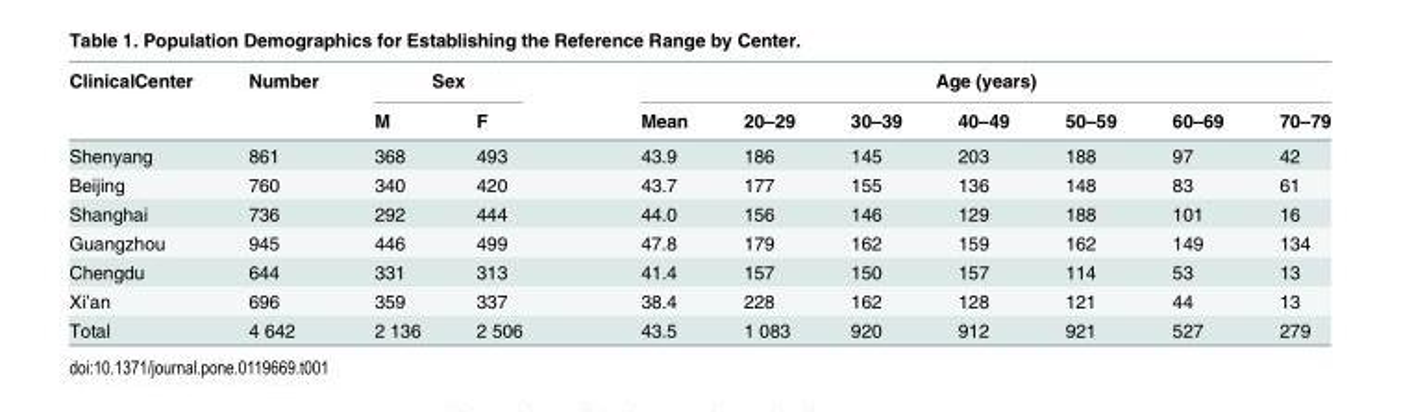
<table><thead><tr><td rowspan="2">ClinicalCenter</td><td rowspan="2">Number</td><td colspan="2">Sex</td><td colspan="7">Age (years)</td></tr><tr><td>M</td><td>F</td><td>Mean</td><td>20–29</td><td>30–39</td><td>40–49</td><td>50–59</td><td>60–69</td><td>70–79</td></tr></thead><tbody><tr><td>Shenyang</td><td>861</td><td>368</td><td>493</td><td>43.9</td><td>186</td><td>145</td><td>203</td><td>188</td><td>97</td><td>42</td></tr><tr><td>Beijing</td><td>760</td><td>340</td><td>420</td><td>43.7</td><td>177</td><td>155</td><td>136</td><td>148</td><td>83</td><td>61</td></tr><tr><td>Shanghai</td><td>736</td><td>292</td><td>444</td><td>44.0</td><td>156</td><td>146</td><td>129</td><td>188</td><td>101</td><td>16</td></tr><tr><td>Guangzhou</td><td>945</td><td>446</td><td>499</td><td>47.8</td><td>179</td><td>162</td><td>159</td><td>162</td><td>149</td><td>134</td></tr><tr><td>Chengdu</td><td>644</td><td>331</td><td>313</td><td>41.4</td><td>157</td><td>150</td><td>157</td><td>114</td><td>53</td><td>13</td></tr><tr><td>Xi’an</td><td>696</td><td>359</td><td>337</td><td>38.4</td><td>228</td><td>162</td><td>128</td><td>121</td><td>44</td><td>13</td></tr><tr><td>Total</td><td>4 642</td><td>2 136</td><td>2 506</td><td>43.5</td><td>1 083</td><td>920</td><td>912</td><td>921</td><td>527</td><td>279</td></tr></tbody></table>